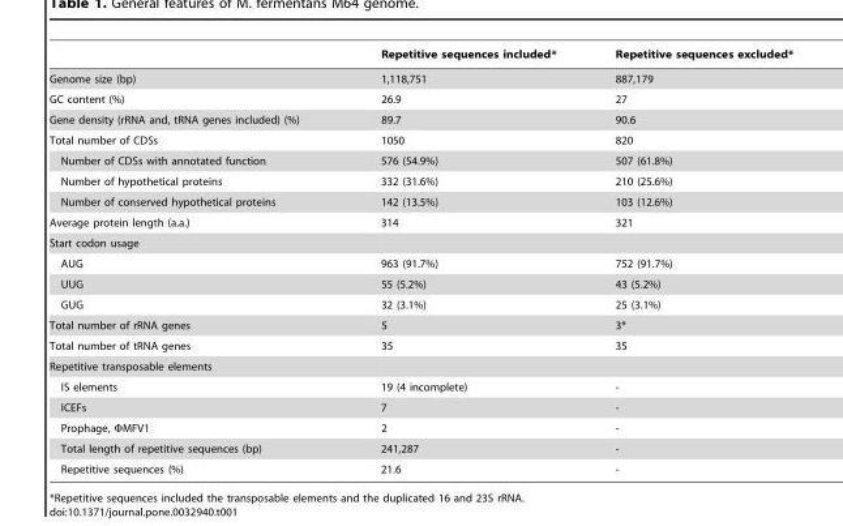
<table><thead><tr><td></td><td>Repetitive sequences included*</td><td>Repetitive sequences excluded*</td></tr></thead><tbody><tr><td>Genome size (bp)</td><td>1,118,751</td><td>887,179</td></tr><tr><td>GC content (%)</td><td>26.9</td><td>27</td></tr><tr><td>Gene density (rRNA and, tRNA genes included) (%)</td><td>89.7</td><td>90.6</td></tr><tr><td>Total number of CDSs</td><td>1050</td><td>820</td></tr><tr><td>Number of CDSs with annotated function</td><td>576 (54.9%)</td><td>507 (61.8%)</td></tr><tr><td>Number of hypothetical proteins</td><td>332 (31.6%)</td><td>210 (25.6%)</td></tr><tr><td>Number of conserved hypothetical proteins</td><td>142 (13.5%)</td><td>103 (12.6%)</td></tr><tr><td>Average protein length (a.a.)</td><td>314</td><td>321</td></tr><tr><td colspan="3">Start codon usage</td></tr><tr><td>AUG</td><td>963 (91.7%)</td><td>752 (91.7%)</td></tr><tr><td>UUG</td><td>55 (5.2%)</td><td>43 (5.2%)</td></tr><tr><td>GUG</td><td>32 (3.1%)</td><td>25 (3.1%)</td></tr><tr><td>Total number of rRNA genes</td><td>5</td><td>3*</td></tr><tr><td>Total number of tRNA genes</td><td>35</td><td>35</td></tr><tr><td colspan="3">Repetitive transposable elements</td></tr><tr><td>IS elements</td><td>19 (4 incomplete)</td><td>-</td></tr><tr><td>ICEFs</td><td>7</td><td>-</td></tr><tr><td>Prophage, ΦMFV1</td><td>2</td><td>-</td></tr><tr><td>Total length of repetitive sequences (bp)</td><td>241,287</td><td>-</td></tr><tr><td>Repetitive sequences (%)</td><td>21.6</td><td>-</td></tr></tbody></table>